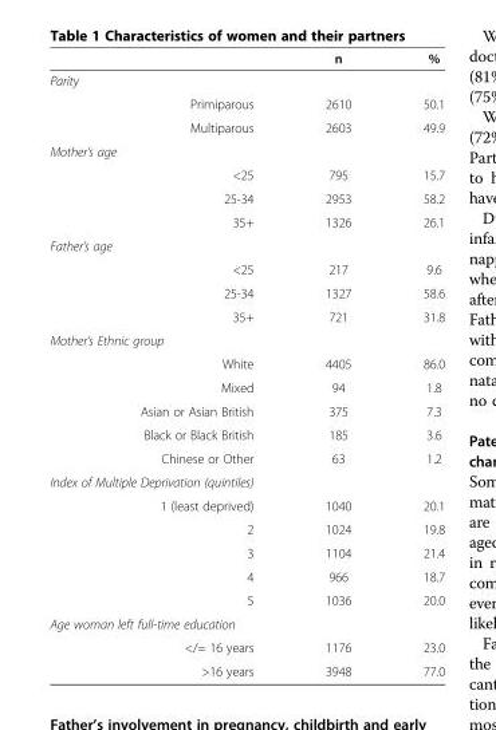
<table><thead><tr><td></td><td>n</td><td>%</td></tr></thead><tbody><tr><td colspan="3">Parity</td></tr><tr><td>Primiparous</td><td>2610</td><td>50.1</td></tr><tr><td>Multiparous</td><td>2603</td><td>49.9</td></tr><tr><td colspan="3">Mother’s age</td></tr><tr><td>&lt;25</td><td>795</td><td>15.7</td></tr><tr><td>25-34</td><td>2953</td><td>58.2</td></tr><tr><td>35+</td><td>1326</td><td>26.1</td></tr><tr><td colspan="3">Father’s age</td></tr><tr><td>&lt;25</td><td>217</td><td>9.6</td></tr><tr><td>25-34</td><td>1327</td><td>58.6</td></tr><tr><td>35+</td><td>721</td><td>31.8</td></tr><tr><td colspan="3">Mother’s Ethnic group</td></tr><tr><td>White</td><td>4405</td><td>86.0</td></tr><tr><td>Mixed</td><td>94</td><td>1.8</td></tr><tr><td>Asian or Asian British</td><td>375</td><td>7.3</td></tr><tr><td>Black or Black British</td><td>185</td><td>3.6</td></tr><tr><td>Chinese or Other</td><td>63</td><td>1.2</td></tr><tr><td colspan="3">Index of Multiple Deprivation (quintiles)</td></tr><tr><td>1 (least deprived)</td><td>1040</td><td>20.1</td></tr><tr><td>2</td><td>1024</td><td>19.8</td></tr><tr><td>3</td><td>1104</td><td>21.4</td></tr><tr><td>4</td><td>966</td><td>18.7</td></tr><tr><td>5</td><td>1036</td><td>20.0</td></tr><tr><td colspan="3">Age woman left full-time education</td></tr><tr><td>&lt;/= 16 years</td><td>1176</td><td>23.0</td></tr><tr><td>&gt;16 years</td><td>3948</td><td>77.0</td></tr></tbody></table>